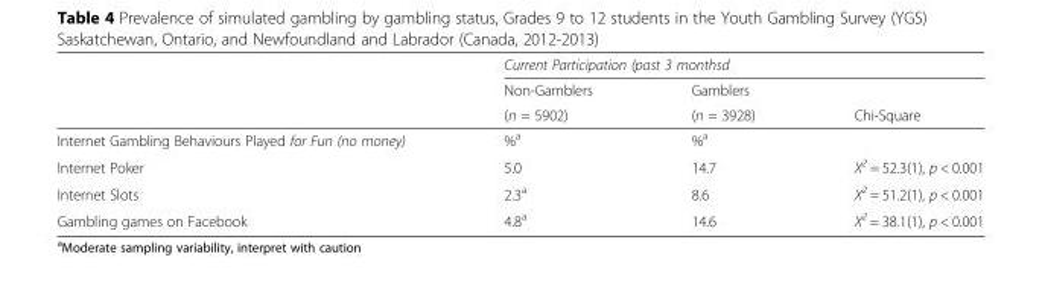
<table><thead><tr><td rowspan="3"></td><td colspan="3">Current Participation (past 3 monthsd</td></tr><tr><td rowspan="2">Non-Gamblers (n = 5902)</td><td rowspan="2">Gamblers (n = 3928)</td><td rowspan="2">Chi-Square</td></tr><tr></tr></thead><tbody><tr><td>Internet Gambling Behaviours Played for Fun (no money)</td><td>%<sup>a</sup></td><td>%<sup>a</sup></td><td></td></tr><tr><td>Internet Poker</td><td>5.0</td><td>14.7</td><td>X<sup>2</sup> = 52.3(1), p &lt; 0.001</td></tr><tr><td>Internet Slots</td><td>2.3<sup>a</sup></td><td>8.6</td><td>X<sup>2</sup> = 51.2(1), p &lt; 0.001</td></tr><tr><td>Gambling games on Facebook</td><td>4.8<sup>a</sup></td><td>14.6</td><td>X<sup>2</sup> = 38.1(1), p &lt; 0.001</td></tr></tbody></table>